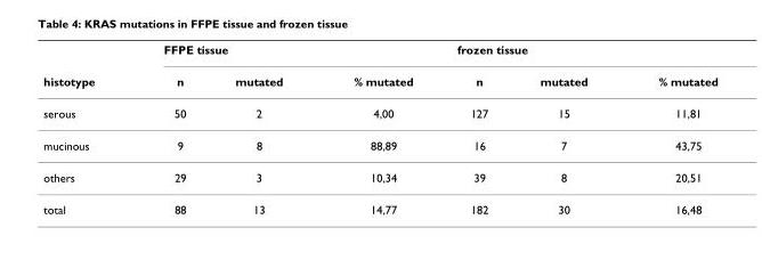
<table><thead><tr><td rowspan="2">histotype</td><td colspan="3">FFPE tissue</td><td colspan="3">frozen tissue</td></tr><tr><td>n</td><td>mutated</td><td>% mutated</td><td>n</td><td>mutated</td><td>% mutated</td></tr></thead><tbody><tr><td>serous</td><td>50</td><td>2</td><td>4,00</td><td>127</td><td>15</td><td>11,81</td></tr><tr><td>mucinous</td><td>9</td><td>8</td><td>88,89</td><td>16</td><td>7</td><td>43,75</td></tr><tr><td>others</td><td>29</td><td>3</td><td>10,34</td><td>39</td><td>8</td><td>20,51</td></tr><tr><td>total</td><td>88</td><td>13</td><td>14,77</td><td>182</td><td>30</td><td>16,48</td></tr></tbody></table>